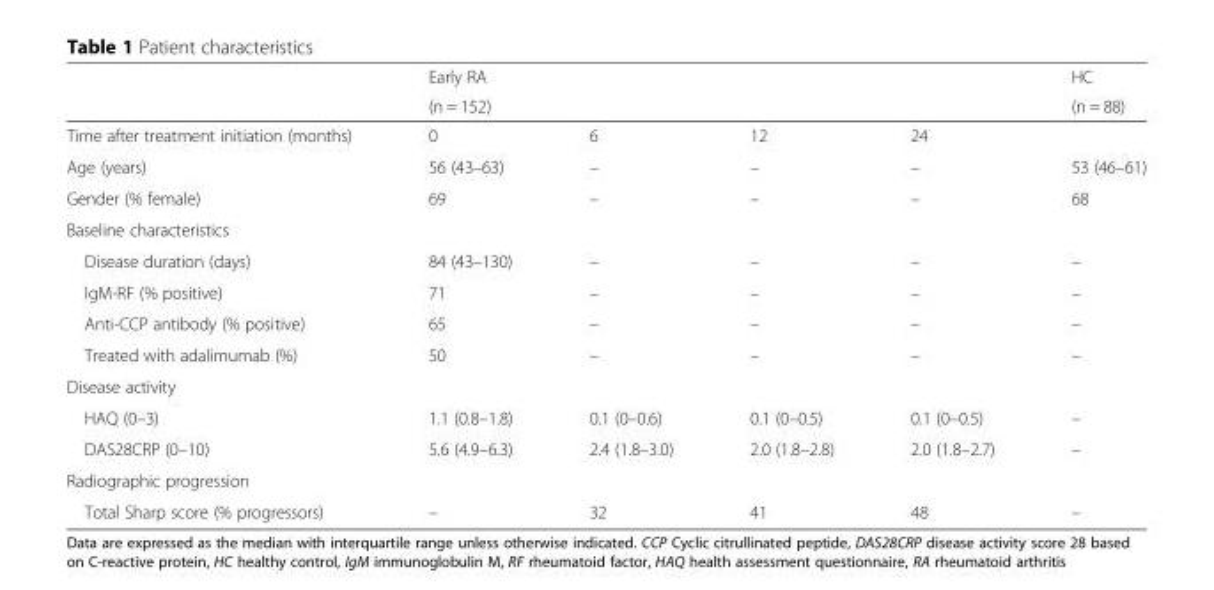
<table><thead><tr><td rowspan="2"></td><td>Early RA</td><td></td><td></td><td></td><td rowspan="2">HC (n = 88)</td></tr><tr><td colspan="4">(n = 152)</td></tr></thead><tbody><tr><td>Time after treatment initiation (months)</td><td>0</td><td>6</td><td>12</td><td>24</td><td></td></tr><tr><td>Age (years)</td><td>56 (43–63)</td><td>–</td><td>–</td><td>–</td><td>53 (46–61)</td></tr><tr><td>Gender (% female)</td><td>69</td><td>–</td><td>–</td><td>–</td><td>68</td></tr><tr><td colspan="6">Baseline characteristics</td></tr><tr><td>Disease duration (days)</td><td>84 (43–130)</td><td>–</td><td>–</td><td>–</td><td>–</td></tr><tr><td>IgM-RF (% positive)</td><td>71</td><td>–</td><td>–</td><td>–</td><td>–</td></tr><tr><td>Anti-CCP antibody (% positive)</td><td>65</td><td>–</td><td>–</td><td>–</td><td>–</td></tr><tr><td>Treated with adalimumab (%)</td><td>50</td><td>–</td><td>–</td><td>–</td><td>–</td></tr><tr><td colspan="6">Disease activity</td></tr><tr><td>HAQ (0–3)</td><td>1.1 (0.8–1.8)</td><td>0.1 (0–0.6)</td><td>0.1 (0–0.5)</td><td>0.1 (0–0.5)</td><td>–</td></tr><tr><td>DAS28CRP (0–10)</td><td>5.6 (4.9–6.3)</td><td>2.4 (1.8–3.0)</td><td>2.0 (1.8–2.8)</td><td>2.0 (1.8–2.7)</td><td>–</td></tr><tr><td colspan="6">Radiographic progression</td></tr><tr><td>Total Sharp score (% progressors)</td><td>–</td><td>32</td><td>41</td><td>48</td><td>–</td></tr></tbody></table>